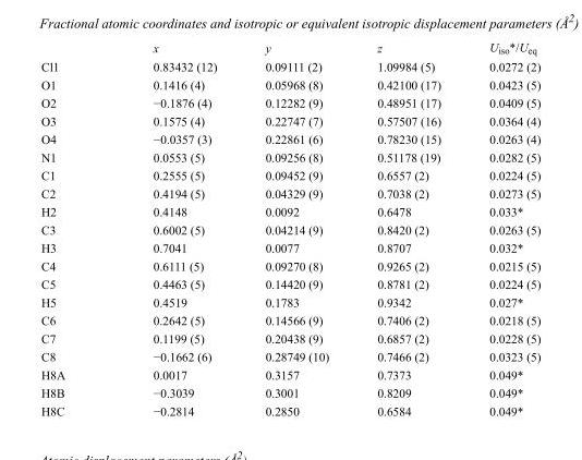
<table><thead><tr><td></td><td>x</td><td>y</td><td>z</td><td>U<sub>iso</sub>*/U<sub>eq</sub></td></tr></thead><tbody><tr><td>Cl1</td><td>0.83432 (12)</td><td>0.09111 (2)</td><td>1.09984 (5)</td><td>0.0272 (2)</td></tr><tr><td>O1</td><td>0.1416 (4)</td><td>0.05968 (8)</td><td>0.42100 (17)</td><td>0.0423 (5)</td></tr><tr><td>O2</td><td>−0.1876 (4)</td><td>0.12282 (9)</td><td>0.48951 (17)</td><td>0.0409 (5)</td></tr><tr><td>O3</td><td>0.1575 (4)</td><td>0.22747 (7)</td><td>0.57507 (16)</td><td>0.0364 (4)</td></tr><tr><td>O4</td><td>−0.0357 (3)</td><td>0.22861 (6)</td><td>0.78230 (15)</td><td>0.0263 (4)</td></tr><tr><td>N1</td><td>0.0553 (5)</td><td>0.09256 (8)</td><td>0.51178 (19)</td><td>0.0282 (5)</td></tr><tr><td>C1</td><td>0.2555 (5)</td><td>0.09452 (9)</td><td>0.6557 (2)</td><td>0.0224 (5)</td></tr><tr><td>C2</td><td>0.4194 (5)</td><td>0.04329 (9)</td><td>0.7038 (2)</td><td>0.0273 (5)</td></tr><tr><td>H2</td><td>0.4148</td><td>0.0092</td><td>0.6478</td><td>0.033*</td></tr><tr><td>C3</td><td>0.6002 (5)</td><td>0.04214 (9)</td><td>0.8420 (2)</td><td>0.0263 (5)</td></tr><tr><td>H3</td><td>0.7041</td><td>0.0077</td><td>0.8707</td><td>0.032*</td></tr><tr><td>C4</td><td>0.6111 (5)</td><td>0.09270 (8)</td><td>0.9265 (2)</td><td>0.0215 (5)</td></tr><tr><td>C5</td><td>0.4463 (5)</td><td>0.14420 (9)</td><td>0.8781 (2)</td><td>0.0224 (5)</td></tr><tr><td>H5</td><td>0.4519</td><td>0.1783</td><td>0.9342</td><td>0.027*</td></tr><tr><td>C6</td><td>0.2642 (5)</td><td>0.14566 (9)</td><td>0.7406 (2)</td><td>0.0218 (5)</td></tr><tr><td>C7</td><td>0.1199 (5)</td><td>0.20438 (9)</td><td>0.6857 (2)</td><td>0.0228 (5)</td></tr><tr><td>C8</td><td>−0.1662 (6)</td><td>0.28749 (10)</td><td>0.7466 (2)</td><td>0.0323 (5)</td></tr><tr><td>H8A</td><td>0.0017</td><td>0.3157</td><td>0.7373</td><td>0.049*</td></tr><tr><td>H8B</td><td>−0.3039</td><td>0.3001</td><td>0.8209</td><td>0.049*</td></tr><tr><td>H8C</td><td>−0.2814</td><td>0.2850</td><td>0.6584</td><td>0.049*</td></tr></tbody></table>